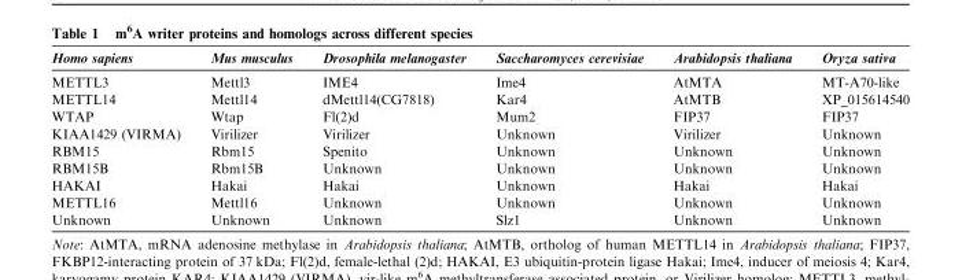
<table><thead><tr><td>Homo sapiens</td><td>Mus musculus</td><td>Drosophila melanogaster</td><td>Saccharomyces cerevisiae</td><td>Arabidopsis thaliana</td><td>Oryza sativa</td></tr></thead><tbody><tr><td>METTL3</td><td>Mettl3</td><td>IME4</td><td>Ime4</td><td>AtMTA</td><td>MT-A70-like</td></tr><tr><td>METTL14</td><td>Mettl14</td><td>dMettl14(CG7818)</td><td>Kar4</td><td>AtMTB</td><td>XP_015614540</td></tr><tr><td>WTAP</td><td>Wtap</td><td>Fl(2)d</td><td>Mum2</td><td>FIP37</td><td>FIP37</td></tr><tr><td>KIAA1429 (VIRMA)</td><td>Virilizer</td><td>Virilizer</td><td>Unknown</td><td>Virilizer</td><td>Unknown</td></tr><tr><td>RBM15</td><td>Rbm15</td><td>Spenito</td><td>Unknown</td><td>Unknown</td><td>Unknown</td></tr><tr><td>RBM15B</td><td>Rbm15B</td><td>Unknown</td><td>Unknown</td><td>Unknown</td><td>Unknown</td></tr><tr><td>HAKAI</td><td>Hakai</td><td>Hakai</td><td>Unknown</td><td>Hakai</td><td>Hakai</td></tr><tr><td>METTL16</td><td>Mettl16</td><td>Unknown</td><td>Unknown</td><td>Unknown</td><td>Unknown</td></tr><tr><td>Unknown</td><td>Unknown</td><td>Unknown</td><td>Slz1</td><td>Unknown</td><td>Unknown</td></tr></tbody></table>